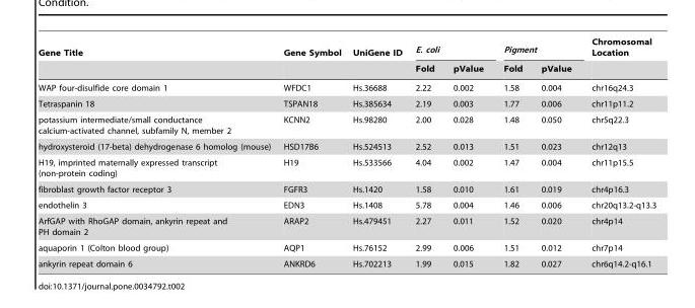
<table><thead><tr><td rowspan="2">Gene Title</td><td rowspan="2">Gene Symbol</td><td rowspan="2">UniGene ID</td><td colspan="2">E. coli</td><td colspan="2">Pigment</td><td rowspan="2">Chromosomal Location</td></tr><tr><td>Fold</td><td>pValue</td><td>Fold</td><td>pValue</td></tr></thead><tbody><tr><td>WAP four-disulfide core domain 1</td><td>WFDC1</td><td>Hs.36688</td><td>2.22</td><td>0.002</td><td>1.58</td><td>0.004</td><td>chr16q24.3</td></tr><tr><td>Tetraspanin 18</td><td>TSPAN18</td><td>Hs.385634</td><td>2.19</td><td>0.003</td><td>1.77</td><td>0.006</td><td>chr11p11.2</td></tr><tr><td>potassium intermediate/small conductance calcium-activated channel, subfamily N, member 2</td><td>KCNN2</td><td>Hs.98280</td><td>2.00</td><td>0.028</td><td>1.48</td><td>0.050</td><td>chr5q22.3</td></tr><tr><td>hydroxysteroid (17-beta) dehydrogenase 6 homolog (mouse)</td><td>HSD17B6</td><td>Hs.524513</td><td>2.52</td><td>0.013</td><td>1.51</td><td>0.023</td><td>chr12q13</td></tr><tr><td>H19, imprinted maternally expressed transcript (non-protein coding)</td><td>H19</td><td>Hs.533566</td><td>4.04</td><td>0.002</td><td>1.47</td><td>0.004</td><td>chr11p15.5</td></tr><tr><td>fibroblast growth factor receptor 3</td><td>FGFR3</td><td>Hs.1420</td><td>1.58</td><td>0.010</td><td>1.61</td><td>0.019</td><td>chr4p16.3</td></tr><tr><td>endothelin 3</td><td>EDN3</td><td>Hs.1408</td><td>5.78</td><td>0.004</td><td>1.46</td><td>0.006</td><td>chr20q13.2-q13.3</td></tr><tr><td>ArfGAP with RhoGAP domain, ankyrin repeat and PH domain 2</td><td>ARAP2</td><td>Hs.479451</td><td>2.27</td><td>0.011</td><td>1.52</td><td>0.020</td><td>chr4p14</td></tr><tr><td>aquaporin 1 (Colton blood group)</td><td>AQP1</td><td>Hs.76152</td><td>2.99</td><td>0.006</td><td>1.51</td><td>0.012</td><td>chr7p14</td></tr><tr><td>ankyrin repeat domain 6</td><td>ANKRD6</td><td>Hs.702213</td><td>1.99</td><td>0.015</td><td>1.82</td><td>0.027</td><td>chr6q14.2-q16.1</td></tr></tbody></table>